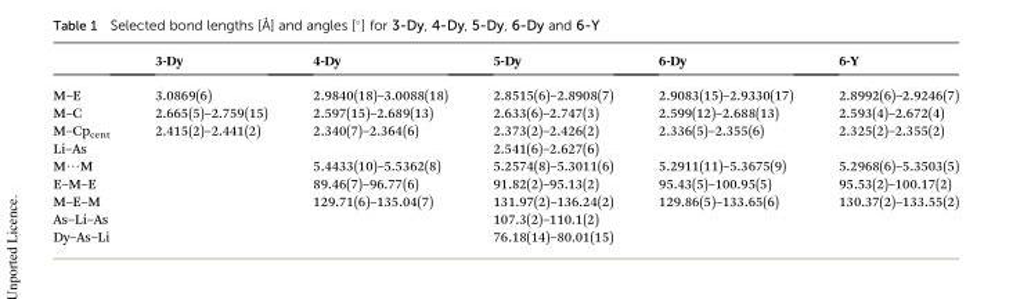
<table><thead><tr><td></td><td>3-Dy</td><td>4-Dy</td><td>5-Dy</td><td>6-Dy</td><td>6-Y</td></tr></thead><tbody><tr><td>M–E</td><td>3.0869(6)</td><td>2.9840(18)–3.0088(18)</td><td>2.8515(6)–2.8908(7)</td><td>2.9083(15)–2.9330(17)</td><td>2.8992(6)–2.9246(7)</td></tr><tr><td>M–C</td><td>2.665(5)–2.759(15)</td><td>2.597(15)–2.689(13)</td><td>2.633(6)–2.747(3)</td><td>2.599(12)–2.688(13)</td><td>2.593(4)–2.672(4)</td></tr><tr><td>M–Cp<sub>cent</sub></td><td>2.415(2)–2.441(2)</td><td>2.340(7)–2.364(6)</td><td>2.373(2)–2.426(2)</td><td>2.336(5)–2.355(6)</td><td>2.325(2)–2.355(2)</td></tr><tr><td>Li–As</td><td></td><td></td><td>2.541(6)–2.627(6)</td><td></td><td></td></tr><tr><td>M/M</td><td></td><td>5.4433(10)–5.5362(8)</td><td>5.2574(8)–5.3011(6)</td><td>5.2911(11)–5.3675(9)</td><td>5.2968(6)–5.3503(5)</td></tr><tr><td>E–M–E</td><td></td><td>89.46(7)–96.77(6)</td><td>91.82(2)–95.13(2)</td><td>95.43(5)–100.95(5)</td><td>95.53(2)–100.17(2)</td></tr><tr><td>M–E–M</td><td></td><td>129.71(6)–135.04(7)</td><td>131.97(2)–136.24(2)</td><td>129.86(5)–133.65(6)</td><td>130.37(2)–133.55(2)</td></tr><tr><td>As–Li–As</td><td></td><td></td><td>107.3(2)–110.1(2)</td><td></td><td></td></tr><tr><td>Dy–As–Li</td><td></td><td></td><td>76.18(14)–80.01(15)</td><td></td><td></td></tr></tbody></table>